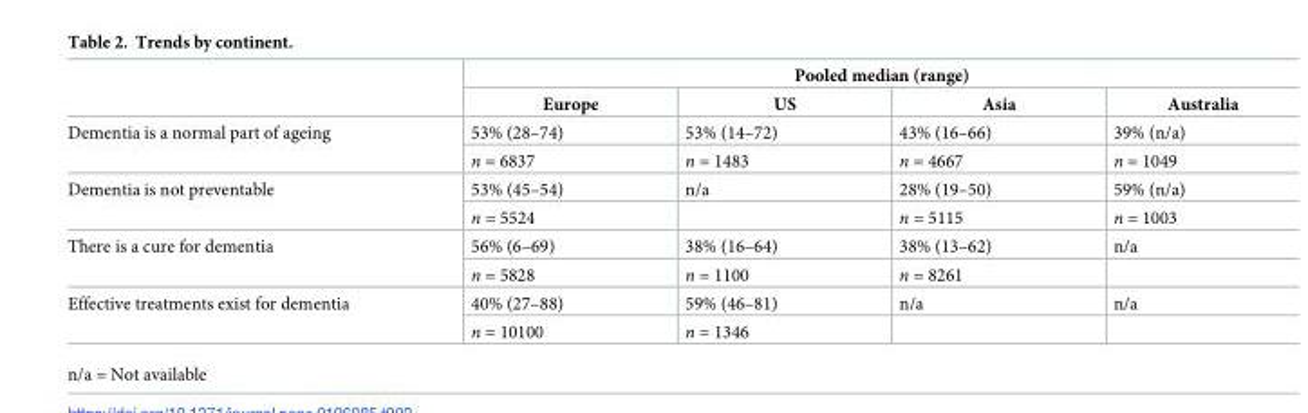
<table><thead><tr><td rowspan="2"></td><td colspan="4">Pooled median (range)</td></tr><tr><td>Europe</td><td>US</td><td>Asia</td><td>Australia</td></tr></thead><tbody><tr><td rowspan="2">Dementia is a normal part of ageing</td><td>53% (28–74)</td><td>53% (14–72)</td><td>43% (16–66)</td><td>39% (n/a)</td></tr><tr><td>n = 6837</td><td>n = 1483</td><td>n = 4667</td><td>n = 1049</td></tr><tr><td rowspan="2">Dementia is not preventable</td><td>53% (45–54)</td><td>n/a</td><td>28% (19–50)</td><td>59% (n/a)</td></tr><tr><td>n = 5524</td><td></td><td>n = 5115</td><td>n = 1003</td></tr><tr><td rowspan="2">There is a cure for dementia</td><td>56% (6–69)</td><td>38% (16–64)</td><td>38% (13–62)</td><td>n/a</td></tr><tr><td>n = 5828</td><td>n = 1100</td><td>n = 8261</td><td></td></tr><tr><td rowspan="2">Effective treatments exist for dementia</td><td>40% (27–88)</td><td>59% (46–81)</td><td>n/a</td><td>n/a</td></tr><tr><td>n = 10100</td><td>n = 1346</td><td></td><td></td></tr></tbody></table>